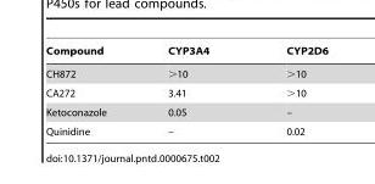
<table><thead><tr><td>Compound</td><td>CYP3A4</td><td>CYP2D6</td></tr></thead><tbody><tr><td>CH872</td><td>&gt;10</td><td>&gt;10</td></tr><tr><td>CA272</td><td>3.41</td><td>&gt;10</td></tr><tr><td>Ketoconazole</td><td>0.05</td><td>–</td></tr><tr><td>Quinidine</td><td>–</td><td>0.02</td></tr></tbody></table>